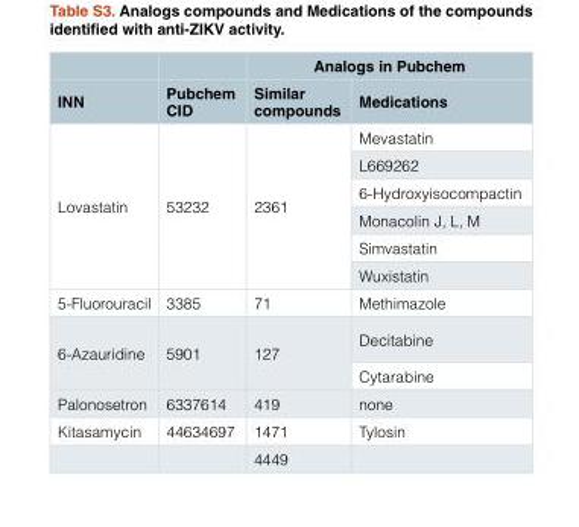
<table><thead><tr><td rowspan="2">INN</td><td rowspan="2">Pubchem CID</td><td colspan="2">Analogs in Pubchem</td></tr><tr><td>Similar compounds</td><td>Medications</td></tr></thead><tbody><tr><td>Lovastatin</td><td>53232</td><td>2361</td><td>Mevastatin L669262 6-Hydroxyisocompactin Monacolin J, L, M Simvastatin Wuxistatin</td></tr><tr><td>5-Fluorouracil</td><td>3385</td><td>71</td><td>Methimazole</td></tr><tr><td>6-Azauridine</td><td>5901</td><td>127</td><td>Decitabine Cytarabine</td></tr><tr><td>Palonosetron</td><td>6337614</td><td>419</td><td>none</td></tr><tr><td rowspan="2">Kitasamycin</td><td>44634697</td><td>1471</td><td>Tylosin</td></tr><tr><td></td><td colspan="2">4449</td></tr></tbody></table>